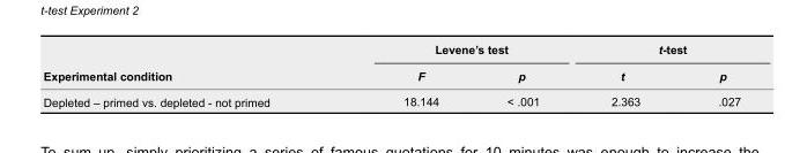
<table><thead><tr><td rowspan="2">Experimental condition</td><td colspan="2">Levene’s test</td><td colspan="2">t-test</td></tr><tr><td>F</td><td>p</td><td>t</td><td>p</td></tr></thead><tbody><tr><td>Depleted – primed vs. depleted - not primed</td><td>18.144</td><td>&lt; .001</td><td>2.363</td><td>.027</td></tr></tbody></table>